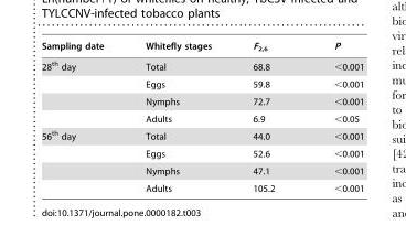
<table><thead><tr><td>Sampling date</td><td>Whitefly stages</td><td>F<sub>2,6</sub></td><td>P</td></tr></thead><tbody><tr><td rowspan="4">28<sup>th</sup> day</td><td>Total</td><td>68.8</td><td>&lt;0.001</td></tr><tr><td>Eggs</td><td>59.8</td><td>&lt;0.001</td></tr><tr><td>Nymphs</td><td>72.7</td><td>&lt;0.001</td></tr><tr><td>Adults</td><td>6.9</td><td>&lt;0.05</td></tr><tr><td rowspan="4">56<sup>th</sup> day</td><td>Total</td><td>44.0</td><td>&lt;0.001</td></tr><tr><td>Eggs</td><td>52.6</td><td>&lt;0.001</td></tr><tr><td>Nymphs</td><td>47.1</td><td>&lt;0.001</td></tr><tr><td>Adults</td><td>105.2</td><td>&lt;0.001</td></tr></tbody></table>